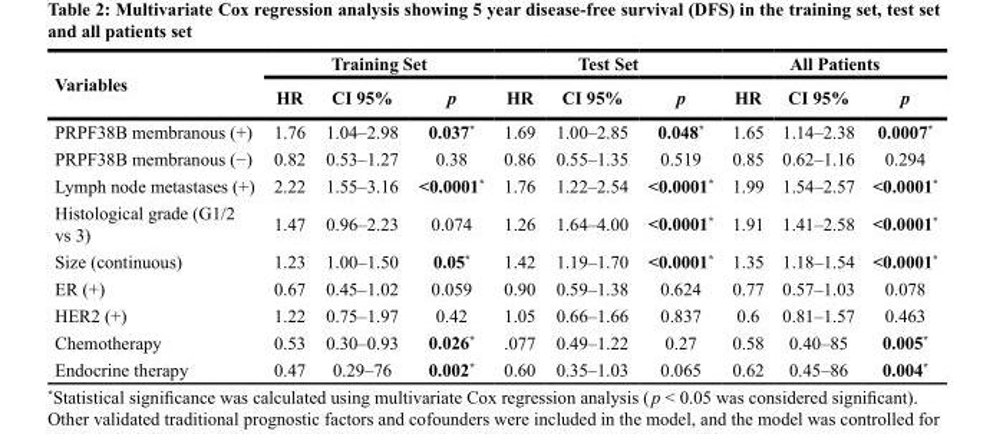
<table><thead><tr><td rowspan="2">Variables</td><td colspan="3">Training Set</td><td colspan="3">Test Set</td><td colspan="3">All Patients</td></tr><tr><td>HR</td><td>CI 95%</td><td>p</td><td>HR</td><td>CI 95%</td><td>p</td><td>HR</td><td>CI 95%</td><td>p</td></tr></thead><tbody><tr><td>PRPF38B membranous (+)</td><td>1.76</td><td>1.04–2.98</td><td>0.037*</td><td>1.69</td><td>1.00–2.85</td><td>0.048*</td><td>1.65</td><td>1.14–2.38</td><td>0.0007*</td></tr><tr><td>PRPF38B membranous (−)</td><td>0.82</td><td>0.53–1.27</td><td>0.38</td><td>0.86</td><td>0.55–1.35</td><td>0.519</td><td>0.85</td><td>0.62–1.16</td><td>0.294</td></tr><tr><td>Lymph node metastases (+)</td><td>2.22</td><td>1.55–3.16</td><td>&lt;0.0001*</td><td>1.76</td><td>1.22–2.54</td><td>&lt;0.0001*</td><td>1.99</td><td>1.54–2.57</td><td>&lt;0.0001*</td></tr><tr><td>Histological grade (G1/2 vs 3)</td><td>1.47</td><td>0.96–2.23</td><td>0.074</td><td>1.26</td><td>1.64–4.00</td><td>&lt;0.0001*</td><td>1.91</td><td>1.41–2.58</td><td>&lt;0.0001*</td></tr><tr><td>Size (continuous)</td><td>1.23</td><td>1.00–1.50</td><td>0.05*</td><td>1.42</td><td>1.19–1.70</td><td>&lt;0.0001*</td><td>1.35</td><td>1.18–1.54</td><td>&lt;0.0001*</td></tr><tr><td>ER (+)</td><td>0.67</td><td>0.45–1.02</td><td>0.059</td><td>0.90</td><td>0.59–1.38</td><td>0.624</td><td>0.77</td><td>0.57–1.03</td><td>0.078</td></tr><tr><td>HER2 (+)</td><td>1.22</td><td>0.75–1.97</td><td>0.42</td><td>1.05</td><td>0.66–1.66</td><td>0.837</td><td>0.6</td><td>0.81–1.57</td><td>0.463</td></tr><tr><td>Chemotherapy</td><td>0.53</td><td>0.30–0.93</td><td>0.026*</td><td>.077</td><td>0.49–1.22</td><td>0.27</td><td>0.58</td><td>0.40–85</td><td>0.005*</td></tr><tr><td>Endocrine therapy</td><td>0.47</td><td>0.29–76</td><td>0.002*</td><td>0.60</td><td>0.35–1.03</td><td>0.065</td><td>0.62</td><td>0.45–86</td><td>0.004*</td></tr></tbody></table>